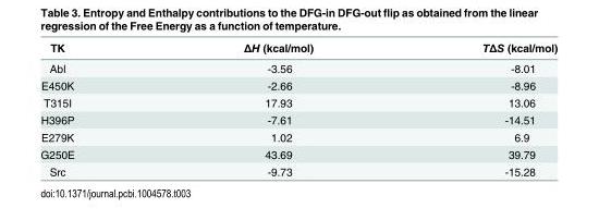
<table><thead><tr><td>TK</td><td>ΔH (kcal/mol)</td><td>TΔS (kcal/mol)</td></tr></thead><tbody><tr><td>Abl</td><td>-3.56</td><td>-8.01</td></tr><tr><td>E450K</td><td>-2.66</td><td>-8.96</td></tr><tr><td>T315I</td><td>17.93</td><td>13.06</td></tr><tr><td>H396P</td><td>-7.61</td><td>-14.51</td></tr><tr><td>E279K</td><td>1.02</td><td>6.9</td></tr><tr><td>G250E</td><td>43.69</td><td>39.79</td></tr><tr><td>Src</td><td>-9.73</td><td>-15.28</td></tr></tbody></table>